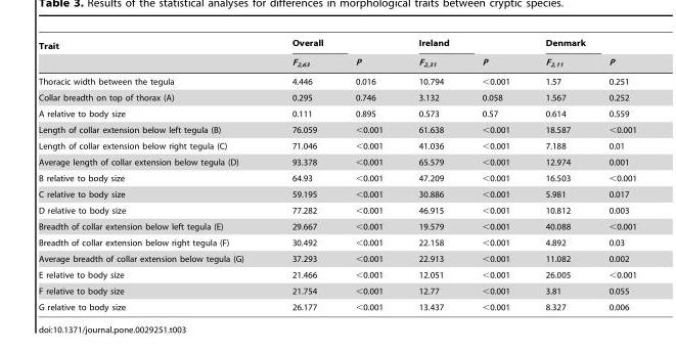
<table><thead><tr><td rowspan="2">Trait</td><td rowspan="2">Overall F<sub>2,63</sub></td><td rowspan="2">P</td><td rowspan="2">Ireland F<sub>2,31</sub></td><td rowspan="2">P</td><td rowspan="2">Denmark F<sub>2,11</sub></td><td rowspan="2">P</td></tr><tr></tr></thead><tbody><tr><td>Thoracic width between the tegula</td><td>4.446</td><td>0.016</td><td>10.794</td><td>&lt;0.001</td><td>1.57</td><td>0.251</td></tr><tr><td>Collar breadth on top of thorax (A)</td><td>0.295</td><td>0.746</td><td>3.132</td><td>0.058</td><td>1.567</td><td>0.252</td></tr><tr><td>A relative to body size</td><td>0.111</td><td>0.895</td><td>0.573</td><td>0.57</td><td>0.614</td><td>0.559</td></tr><tr><td>Length of collar extension below left tegula (B)</td><td>76.059</td><td>&lt;0.001</td><td>61.638</td><td>&lt;0.001</td><td>18.587</td><td>&lt;0.001</td></tr><tr><td>Length of collar extension below right tegula (C)</td><td>71.046</td><td>&lt;0.001</td><td>41.036</td><td>&lt;0.001</td><td>7.188</td><td>0.01</td></tr><tr><td>Average length of collar extension below tegula (D)</td><td>93.378</td><td>&lt;0.001</td><td>65.579</td><td>&lt;0.001</td><td>12.974</td><td>0.001</td></tr><tr><td>B relative to body size</td><td>64.93</td><td>&lt;0.001</td><td>47.209</td><td>&lt;0.001</td><td>16.503</td><td>&lt;0.001</td></tr><tr><td>C relative to body size</td><td>59.195</td><td>&lt;0.001</td><td>30.886</td><td>&lt;0.001</td><td>5.981</td><td>0.017</td></tr><tr><td>D relative to body size</td><td>77.282</td><td>&lt;0.001</td><td>46.915</td><td>&lt;0.001</td><td>10.812</td><td>0.003</td></tr><tr><td>Breadth of collar extension below left tegula (E)</td><td>29.667</td><td>&lt;0.001</td><td>19.579</td><td>&lt;0.001</td><td>40.088</td><td>&lt;0.001</td></tr><tr><td>Breadth of collar extension below right tegula (F)</td><td>30.492</td><td>&lt;0.001</td><td>22.158</td><td>&lt;0.001</td><td>4.892</td><td>0.03</td></tr><tr><td>Average breadth of collar extension below tegula (G)</td><td>37.293</td><td>&lt;0.001</td><td>22.913</td><td>&lt;0.001</td><td>11.082</td><td>0.002</td></tr><tr><td>E relative to body size</td><td>21.466</td><td>&lt;0.001</td><td>12.051</td><td>&lt;0.001</td><td>26.005</td><td>&lt;0.001</td></tr><tr><td>F relative to body size</td><td>21.754</td><td>&lt;0.001</td><td>12.77</td><td>&lt;0.001</td><td>3.81</td><td>0.055</td></tr><tr><td>G relative to body size</td><td>26.177</td><td>&lt;0.001</td><td>13.437</td><td>&lt;0.001</td><td>8.327</td><td>0.006</td></tr></tbody></table>